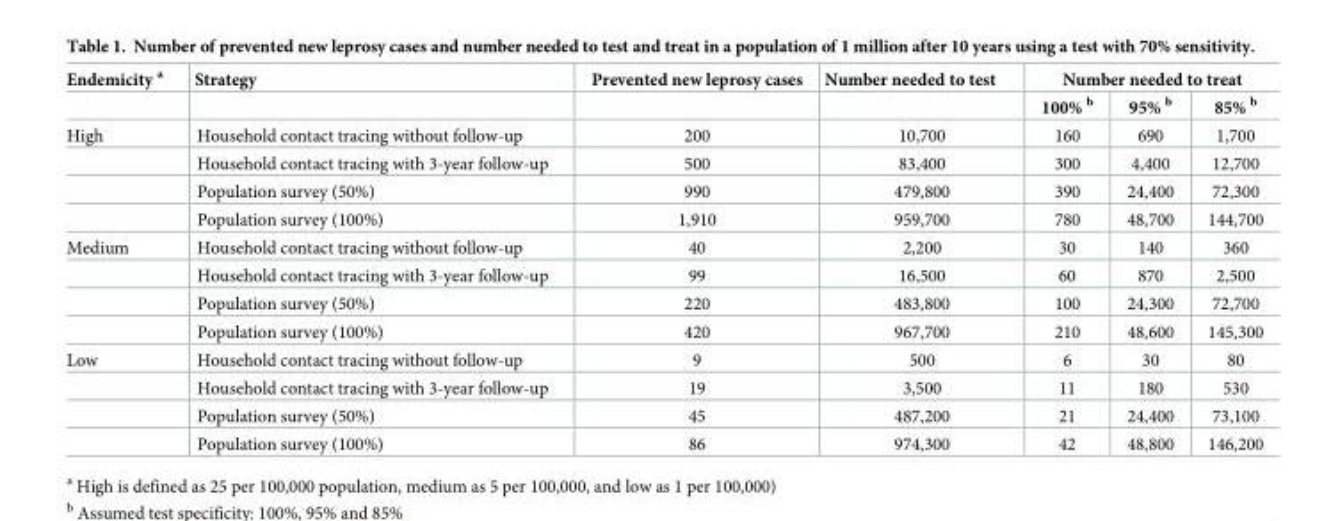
<table><thead><tr><td rowspan="2">Endemicity <sup>a</sup></td><td rowspan="2">Strategy</td><td rowspan="2">Prevented new leprosy cases</td><td rowspan="2">Number needed to test</td><td colspan="3">Number needed to treat</td></tr><tr><td>100% <sup>b</sup></td><td>95% <sup>b</sup></td><td>85% <sup>b</sup></td></tr></thead><tbody><tr><td rowspan="4">High</td><td>Household contact tracing without follow-up</td><td>200</td><td>10,700</td><td>160</td><td>690</td><td>1,700</td></tr><tr><td>Household contact tracing with 3-year follow-up</td><td>500</td><td>83,400</td><td>300</td><td>4,400</td><td>12,700</td></tr><tr><td>Population survey (50%)</td><td>990</td><td>479,800</td><td>390</td><td>24,400</td><td>72,300</td></tr><tr><td>Population survey (100%)</td><td>1,910</td><td>959,700</td><td>780</td><td>48,700</td><td>144,700</td></tr><tr><td rowspan="4">Medium</td><td>Household contact tracing without follow-up</td><td>40</td><td>2,200</td><td>30</td><td>140</td><td>360</td></tr><tr><td>Household contact tracing with 3-year follow-up</td><td>99</td><td>16,500</td><td>60</td><td>870</td><td>2,500</td></tr><tr><td>Population survey (50%)</td><td>220</td><td>483,800</td><td>100</td><td>24,300</td><td>72,700</td></tr><tr><td>Population survey (100%)</td><td>420</td><td>967,700</td><td>210</td><td>48,600</td><td>145,300</td></tr><tr><td rowspan="4">Low</td><td>Household contact tracing without follow-up</td><td>9</td><td>500</td><td>6</td><td>30</td><td>80</td></tr><tr><td>Household contact tracing with 3-year follow-up</td><td>19</td><td>3,500</td><td>11</td><td>180</td><td>530</td></tr><tr><td>Population survey (50%)</td><td>45</td><td>487,200</td><td>21</td><td>24,400</td><td>73,100</td></tr><tr><td>Population survey (100%)</td><td>86</td><td>974,300</td><td>42</td><td>48,800</td><td>146,200</td></tr></tbody></table>